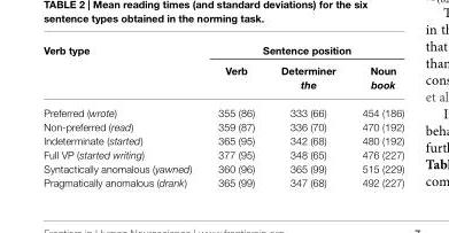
<table><thead><tr><td rowspan="2">Verb type</td><td colspan="3">Sentence position</td></tr><tr><td>Verb</td><td>Determiner the</td><td>Noun book</td></tr></thead><tbody><tr><td>Preferred (wrote)</td><td>355 (86)</td><td>333 (66)</td><td>454 (186)</td></tr><tr><td>Non-preferred (read)</td><td>359 (87)</td><td>336 (70)</td><td>470 (192)</td></tr><tr><td>Indeterminate (started)</td><td>365 (95)</td><td>342 (68)</td><td>480 (192)</td></tr><tr><td>Full VP (started writing)</td><td>377 (95)</td><td>348 (65)</td><td>476 (227)</td></tr><tr><td>Syntactically anomalous (yawned)</td><td>360 (96)</td><td>365 (99)</td><td>515 (229)</td></tr><tr><td>Pragmatically anomalous (drank)</td><td>365 (99)</td><td>347 (68)</td><td>492 (227)</td></tr></tbody></table>